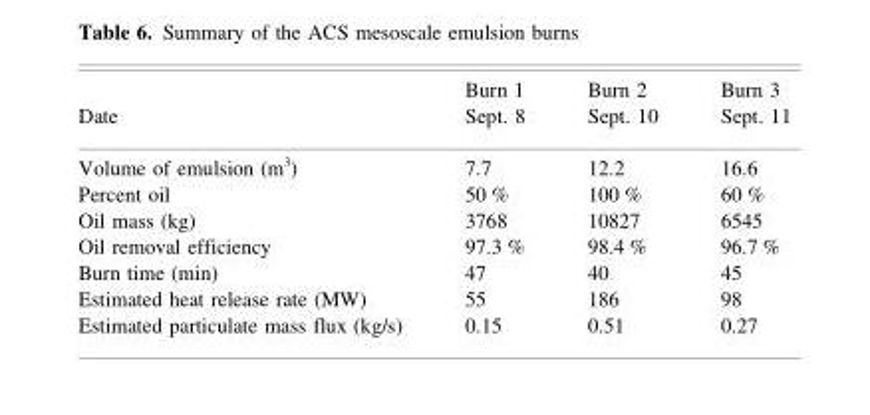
<table><thead><tr><td rowspan="2">Date</td><td rowspan="2">Burn 1 Sept. 8</td><td rowspan="2">Burn 2 Sept. 10</td><td rowspan="2">Burn 3 Sept. 11</td></tr><tr></tr></thead><tbody><tr><td>Volume of emulsion (m<sup>3</sup>)</td><td>7.7</td><td>12.2</td><td>16.6</td></tr><tr><td>Percent oil</td><td>50 %</td><td>100 %</td><td>60 %</td></tr><tr><td>Oil mass (kg)</td><td>3768</td><td>10827</td><td>6545</td></tr><tr><td>Oil removal efficiency</td><td>97.3 %</td><td>98.4 %</td><td>96.7 %</td></tr><tr><td>Burn time (min)</td><td>47</td><td>40</td><td>45</td></tr><tr><td>Estimated heat release rate (MW)</td><td>55</td><td>186</td><td>98</td></tr><tr><td>Estimated particulate mass flux (kg/s)</td><td>0.15</td><td>0.51</td><td>0.27</td></tr></tbody></table>